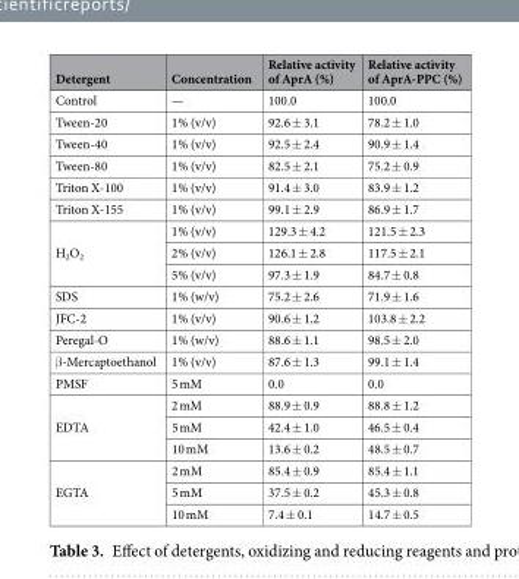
<table><thead><tr><td>Detergent</td><td>Concentration</td><td>Relative activity of AprA (%)</td><td>Relative activity of AprA-PPC (%)</td></tr></thead><tbody><tr><td>Control</td><td>—</td><td>100.0</td><td>100.0</td></tr><tr><td>Tween-20</td><td>1% (v/v)</td><td>92.6 ± 3.1</td><td>78.2 ± 1.0</td></tr><tr><td>Tween-40</td><td>1% (v/v)</td><td>92.5 ± 2.4</td><td>90.9 ± 1.4</td></tr><tr><td>Tween-80</td><td>1% (v/v)</td><td>82.5 ± 2.1</td><td>75.2 ± 0.9</td></tr><tr><td>Triton X-100</td><td>1% (v/v)</td><td>91.4 ± 3.0</td><td>83.9 ± 1.2</td></tr><tr><td>Triton X-155</td><td>1% (v/v)</td><td>99.1 ± 2.9</td><td>86.9 ± 1.7</td></tr><tr><td rowspan="3">H<sub>2</sub>O<sub>2</sub></td><td>1% (v/v)</td><td>129.3 ± 4.2</td><td>121.5 ± 2.3</td></tr><tr><td>2% (v/v)</td><td>126.1 ± 2.8</td><td>117.5 ± 2.1</td></tr><tr><td>5% (v/v)</td><td>97.3 ± 1.9</td><td>84.7 ± 0.8</td></tr><tr><td>SDS</td><td>1% (w/v)</td><td>75.2 ± 2.6</td><td>71.9 ± 1.6</td></tr><tr><td>JFC-2</td><td>1% (v/v)</td><td>90.6 ± 1.2</td><td>103.8 ± 2.2</td></tr><tr><td>Peregal-O</td><td>1% (w/v)</td><td>88.6 ± 1.1</td><td>98.5 ± 2.0</td></tr><tr><td>β-Mercaptoethanol</td><td>1% (v/v)</td><td>87.6 ± 1.3</td><td>99.1 ± 1.4</td></tr><tr><td>PMSF</td><td>5 mM</td><td>0.0</td><td>0.0</td></tr><tr><td rowspan="3">EDTA</td><td>2 mM</td><td>88.9 ± 0.9</td><td>88.8 ± 1.2</td></tr><tr><td>5 mM</td><td>42.4 ± 1.0</td><td>46.5 ± 0.4</td></tr><tr><td>10 mM</td><td>13.6 ± 0.2</td><td>48.5 ± 0.7</td></tr><tr><td rowspan="3">EGTA</td><td>2 mM</td><td>85.4 ± 0.9</td><td>85.4 ± 1.1</td></tr><tr><td>5 mM</td><td>37.5 ± 0.2</td><td>45.3 ± 0.8</td></tr><tr><td>10 mM</td><td>7.4 ± 0.1</td><td>14.7 ± 0.5</td></tr></tbody></table>